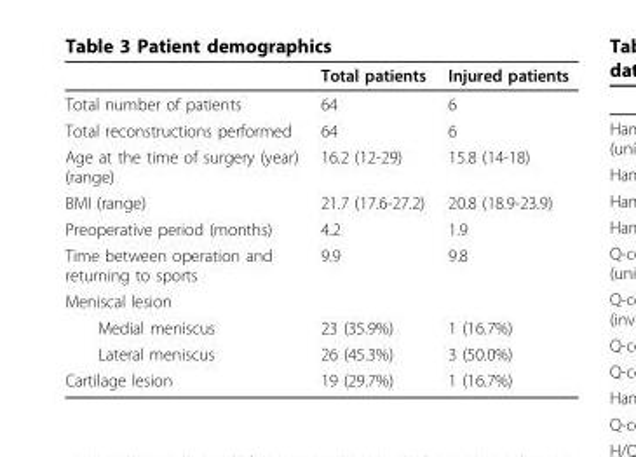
<table><thead><tr><td></td><td>Total patients</td><td>Injured patients</td></tr></thead><tbody><tr><td>Total number of patients</td><td>64</td><td>6</td></tr><tr><td>Total reconstructions performed</td><td>64</td><td>6</td></tr><tr><td>Age at the time of surgery (year) (range)</td><td>16.2 (12-29)</td><td>15.8 (14-18)</td></tr><tr><td>BMI (range)</td><td>21.7 (17.6-27.2)</td><td>20.8 (18.9-23.9)</td></tr><tr><td>Preoperative period (months)</td><td>4.2</td><td>1.9</td></tr><tr><td>Time between operation and returning to sports</td><td>9.9</td><td>9.8</td></tr><tr><td colspan="3">Meniscal lesion</td></tr><tr><td>Medial meniscus</td><td>23 (35.9%)</td><td>1 (16.7%)</td></tr><tr><td>Lateral meniscus</td><td>26 (45.3%)</td><td>3 (50.0%)</td></tr><tr><td>Cartilage lesion</td><td>19 (29.7%)</td><td>1 (16.7%)</td></tr></tbody></table>